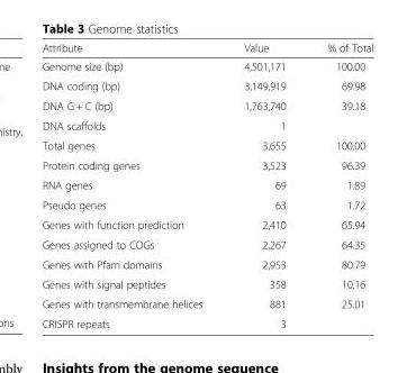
<table><thead><tr><td>Attribute</td><td>Value</td><td>% of Total</td></tr></thead><tbody><tr><td>Genome size (bp)</td><td>4,501,171</td><td>100.00</td></tr><tr><td>DNA coding (bp)</td><td>3,149,919</td><td>69.98</td></tr><tr><td>DNA G + C (bp)</td><td>1,763,740</td><td>39.18</td></tr><tr><td>DNA scaffolds</td><td>1</td><td></td></tr><tr><td>Total genes</td><td>3,655</td><td>100.00</td></tr><tr><td>Protein coding genes</td><td>3,523</td><td>96.39</td></tr><tr><td>RNA genes</td><td>69</td><td>1.89</td></tr><tr><td>Pseudo genes</td><td>63</td><td>1.72</td></tr><tr><td>Genes with function prediction</td><td>2,410</td><td>65.94</td></tr><tr><td>Genes assigned to COGs</td><td>2,267</td><td>64.35</td></tr><tr><td>Genes with Pfam domains</td><td>2,953</td><td>80.79</td></tr><tr><td>Genes with signal peptides</td><td>358</td><td>10.16</td></tr><tr><td>Genes with transmembrane helices</td><td>881</td><td>25.01</td></tr><tr><td>CRISPR repeats</td><td>3</td><td></td></tr></tbody></table>